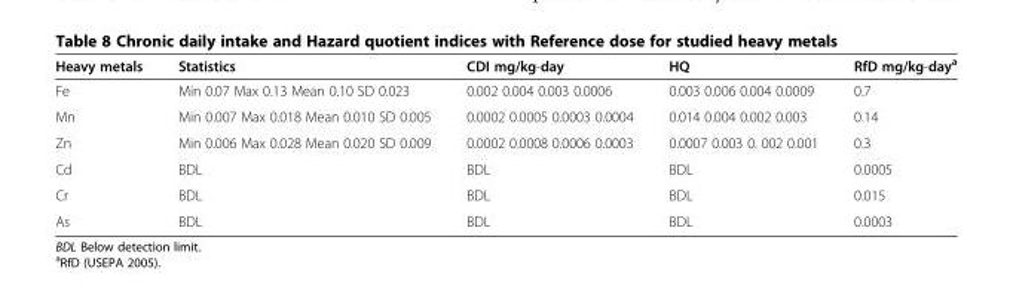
<table><thead><tr><td>Heavy metals</td><td>Statistics</td><td>CDI mg/kg-day</td><td>HQ</td><td>RfD mg/kg-day<sup>a</sup></td></tr></thead><tbody><tr><td>Fe</td><td>Min 0.07 Max 0.13 Mean 0.10 SD 0.023</td><td>0.002 0.004 0.003 0.0006</td><td>0.003 0.006 0.004 0.0009</td><td>0.7</td></tr><tr><td>Mn</td><td>Min 0.007 Max 0.018 Mean 0.010 SD 0.005</td><td>0.0002 0.0005 0.0003 0.0004</td><td>0.014 0.004 0.002 0.003</td><td>0.14</td></tr><tr><td>Zn</td><td>Min 0.006 Max 0.028 Mean 0.020 SD 0.009</td><td>0.0002 0.0008 0.0006 0.0003</td><td>0.0007 0.003 0. 002 0.001</td><td>0.3</td></tr><tr><td>Cd</td><td>BDL</td><td>BDL</td><td>BDL</td><td>0.0005</td></tr><tr><td>Cr</td><td>BDL</td><td>BDL</td><td>BDL</td><td>0.015</td></tr><tr><td>As</td><td>BDL</td><td>BDL</td><td>BDL</td><td>0.0003</td></tr></tbody></table>